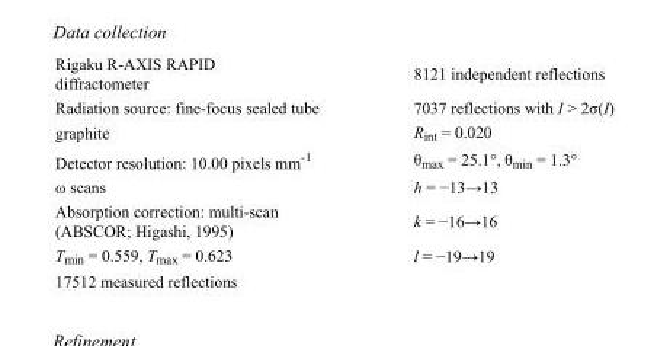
<table><tbody><tr><td>Rigaku R-AXIS RAPID diffractometer</td><td>8121 independent reflections</td></tr><tr><td>Radiation source: fine-focus sealed tube</td><td>7037 reflections with I &gt; 2σ(I)</td></tr><tr><td>graphite</td><td>R<sub>int</sub> = 0.020</td></tr><tr><td>Detector resolution: 10.00 pixels mm<sup>-1</sup></td><td>θ<sub>max</sub> = 25.1°, θ<sub>min</sub> = 1.3°</td></tr><tr><td>ω scans</td><td>h = −13→13</td></tr><tr><td>Absorption correction: multi-scan (ABSCOR; Higashi, 1995)</td><td>k = −16→16</td></tr><tr><td>T<sub>min</sub> = 0.559, T<sub>max</sub> = 0.623</td><td>l = −19→19</td></tr><tr><td>17512 measured reflections</td><td></td></tr></tbody></table>